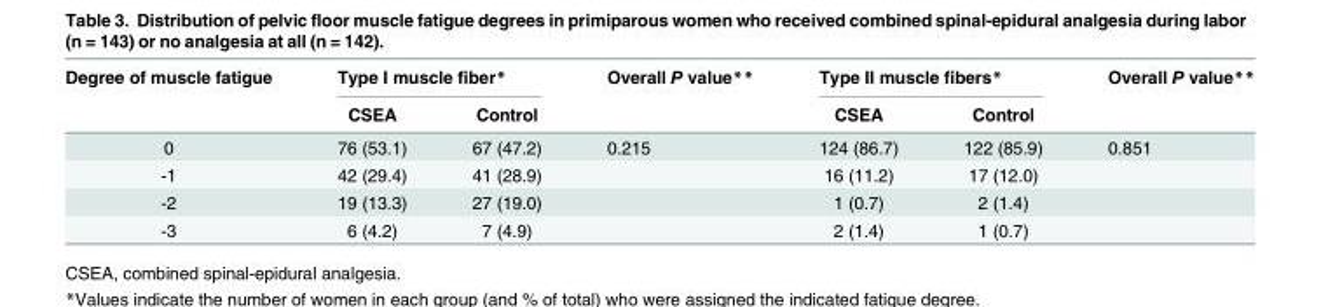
<table><thead><tr><td rowspan="2">Degree of muscle fatigue</td><td colspan="2">Type I muscle fiber*</td><td rowspan="2">Overall P value**</td><td colspan="2">Type II muscle fibers*</td><td rowspan="2">Overall P value**</td></tr><tr><td>CSEA</td><td>Control</td><td>CSEA</td><td>Control</td></tr></thead><tbody><tr><td>0</td><td>76 (53.1)</td><td>67 (47.2)</td><td>0.215</td><td>124 (86.7)</td><td>122 (85.9)</td><td>0.851</td></tr><tr><td>-1</td><td>42 (29.4)</td><td>41 (28.9)</td><td></td><td>16 (11.2)</td><td>17 (12.0)</td><td></td></tr><tr><td>-2</td><td>19 (13.3)</td><td>27 (19.0)</td><td></td><td>1 (0.7)</td><td>2 (1.4)</td><td></td></tr><tr><td>-3</td><td>6 (4.2)</td><td>7 (4.9)</td><td></td><td>2 (1.4)</td><td>1 (0.7)</td><td></td></tr></tbody></table>